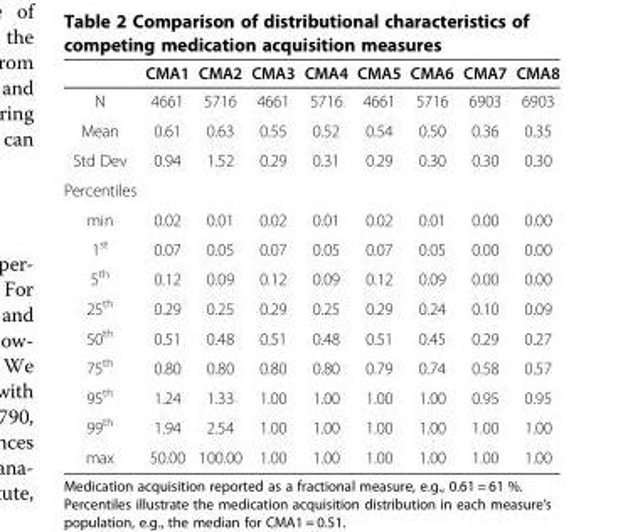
<table><thead><tr><td></td><td>CMA1</td><td>CMA2</td><td>CMA3</td><td>CMA4</td><td>CMA5</td><td>CMA6</td><td>CMA7</td><td>CMA8</td></tr></thead><tbody><tr><td>N</td><td>4661</td><td>5716</td><td>4661</td><td>5716</td><td>4661</td><td>5716</td><td>6903</td><td>6903</td></tr><tr><td>Mean</td><td>0.61</td><td>0.63</td><td>0.55</td><td>0.52</td><td>0.54</td><td>0.50</td><td>0.36</td><td>0.35</td></tr><tr><td>Std Dev</td><td>0.94</td><td>1.52</td><td>0.29</td><td>0.31</td><td>0.29</td><td>0.30</td><td>0.30</td><td>0.30</td></tr><tr><td colspan="9">Percentiles</td></tr><tr><td>min</td><td>0.02</td><td>0.01</td><td>0.02</td><td>0.01</td><td>0.02</td><td>0.01</td><td>0.00</td><td>0.00</td></tr><tr><td>1<sup>st</sup></td><td>0.07</td><td>0.05</td><td>0.07</td><td>0.05</td><td>0.07</td><td>0.05</td><td>0.00</td><td>0.00</td></tr><tr><td>5<sup>th</sup></td><td>0.12</td><td>0.09</td><td>0.12</td><td>0.09</td><td>0.12</td><td>0.09</td><td>0.00</td><td>0.00</td></tr><tr><td>25<sup>th</sup></td><td>0.29</td><td>0.25</td><td>0.29</td><td>0.25</td><td>0.29</td><td>0.24</td><td>0.10</td><td>0.09</td></tr><tr><td>50<sup>th</sup></td><td>0.51</td><td>0.48</td><td>0.51</td><td>0.48</td><td>0.51</td><td>0.45</td><td>0.29</td><td>0.27</td></tr><tr><td>75<sup>th</sup></td><td>0.80</td><td>0.80</td><td>0.80</td><td>0.80</td><td>0.79</td><td>0.74</td><td>0.58</td><td>0.57</td></tr><tr><td>95<sup>th</sup></td><td>1.24</td><td>1.33</td><td>1.00</td><td>1.00</td><td>1.00</td><td>1.00</td><td>0.95</td><td>0.95</td></tr><tr><td>99<sup>th</sup></td><td>1.94</td><td>2.54</td><td>1.00</td><td>1.00</td><td>1.00</td><td>1.00</td><td>1.00</td><td>1.00</td></tr><tr><td>max</td><td>50.00</td><td>100.00</td><td>1.00</td><td>1.00</td><td>1.00</td><td>1.00</td><td>1.00</td><td>1.00</td></tr></tbody></table>